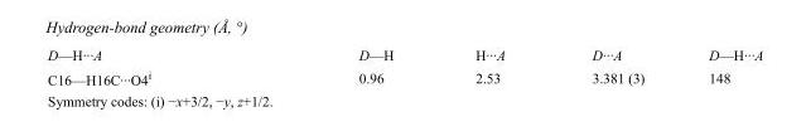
<table><tbody><tr><td>D—H···A</td><td>D—H</td><td>H···A</td><td>D···A</td><td>D—H···A</td></tr><tr><td>C16—H16C···O4<sup>i</sup></td><td>0.96</td><td>2.53</td><td>3.381 (3)</td><td>148</td></tr></tbody></table>